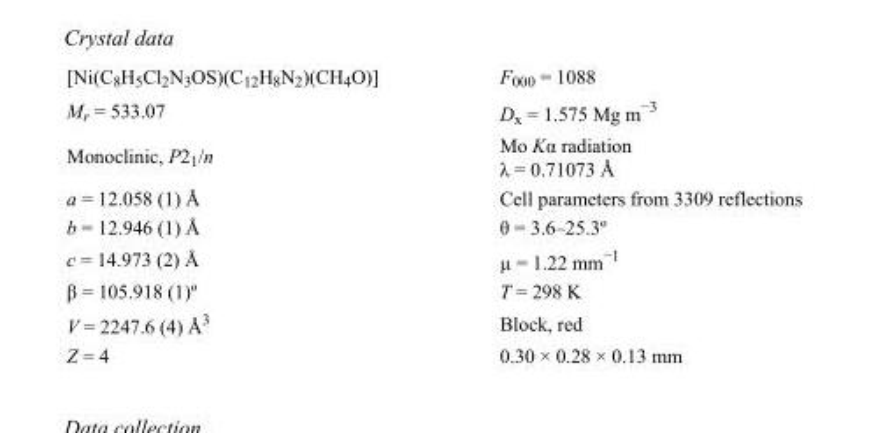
<table><tbody><tr><td>[Ni(C<sub>8</sub>H<sub>5</sub>Cl<sub>2</sub>N<sub>3</sub>OS)(C<sub>12</sub>H<sub>8</sub>N<sub>2</sub>)(CH<sub>4</sub>O)]</td><td>F000 = 1088</td></tr><tr><td>M<sub>r</sub> = 533.07</td><td>D<sub>x</sub> = 1.575 Mg m<sup>−3</sup></td></tr><tr><td>Monoclinic, P2<sub>1</sub>/n</td><td>Mo Kα radiation λ = 0.71073 Å</td></tr><tr><td>a = 12.058 (1) Å</td><td>Cell parameters from 3309 reflections</td></tr><tr><td>b = 12.946 (1) Å</td><td>θ = 3.6–25.3º</td></tr><tr><td>c = 14.973 (2) Å</td><td>µ = 1.22 mm<sup>−1</sup></td></tr><tr><td>β = 105.918 (1)º</td><td>T = 298 K</td></tr><tr><td>V = 2247.6 (4) Å<sup>3</sup></td><td>Block, red</td></tr><tr><td>Z = 4</td><td>0.30 × 0.28 × 0.13 mm</td></tr></tbody></table>